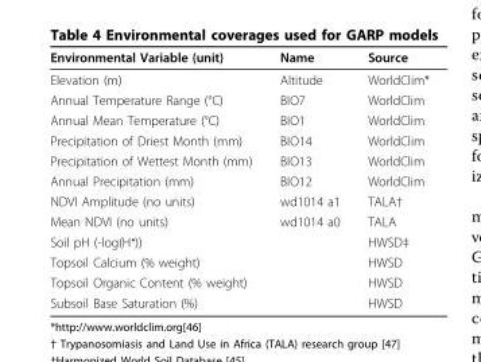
<table><thead><tr><td>Environmental Variable (unit)</td><td>Name</td><td>Source</td></tr></thead><tbody><tr><td>Elevation (m)</td><td>Altitude</td><td>WorldClim*</td></tr><tr><td>Annual Temperature Range (°C)</td><td>BIO7</td><td>WorldClim</td></tr><tr><td>Annual Mean Temperature (°C)</td><td>BIO1</td><td>WorldClim</td></tr><tr><td>Precipitation of Driest Month (mm)</td><td>BIO14</td><td>WorldClim</td></tr><tr><td>Precipitation of Wettest Month (mm)</td><td>BIO13</td><td>WorldClim</td></tr><tr><td>Annual Precipitation (mm)</td><td>BIO12</td><td>WorldClim</td></tr><tr><td>NDVI Amplitude (no units)</td><td>wd1014 a1</td><td>TALA†</td></tr><tr><td>Mean NDVI (no units)</td><td>wd1014 a0</td><td>TALA</td></tr><tr><td>Soil pH (-log(H⁺))</td><td></td><td>HWSD‡</td></tr><tr><td>Topsoil Calcium (% weight)</td><td></td><td>HWSD</td></tr><tr><td>Topsoil Organic Content (% weight)</td><td></td><td>HWSD</td></tr><tr><td>Subsoil Base Saturation (%)</td><td></td><td>HWSD</td></tr></tbody></table>